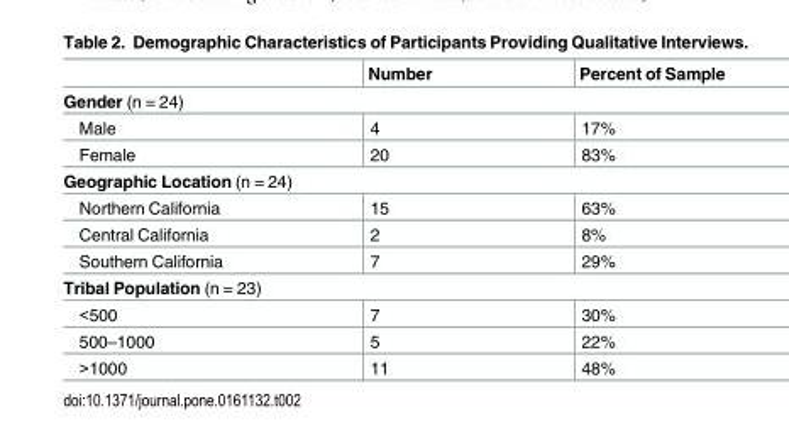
<table><thead><tr><td></td><td>Number</td><td>Percent of Sample</td></tr></thead><tbody><tr><td colspan="3">Gender (n = 24)</td></tr><tr><td>Male</td><td>4</td><td>17%</td></tr><tr><td>Female</td><td>20</td><td>83%</td></tr><tr><td colspan="3">Geographic Location (n = 24)</td></tr><tr><td>Northern California</td><td>15</td><td>63%</td></tr><tr><td>Central California</td><td>2</td><td>8%</td></tr><tr><td>Southern California</td><td>7</td><td>29%</td></tr><tr><td colspan="3">Tribal Population (n = 23)</td></tr><tr><td>&lt;500</td><td>7</td><td>30%</td></tr><tr><td>500–1000</td><td>5</td><td>22%</td></tr><tr><td>&gt;1000</td><td>11</td><td>48%</td></tr></tbody></table>